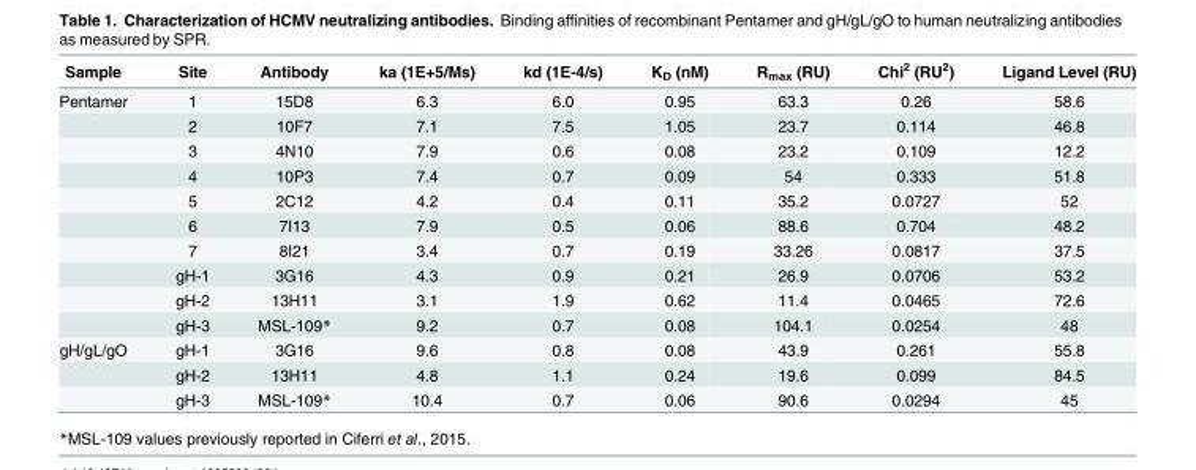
<table><thead><tr><td>Sample</td><td>Site</td><td>Antibody</td><td>ka (1E+5/Ms)</td><td>kd (1E-4/s)</td><td>K<sub>D</sub> (nM)</td><td>R<sub>max</sub> (RU)</td><td>Chi<sup>2</sup> (RU<sup>2</sup>)</td><td>Ligand Level (RU)</td></tr></thead><tbody><tr><td rowspan="10">Pentamer</td><td>1</td><td>15D8</td><td>6.3</td><td>6.0</td><td>0.95</td><td>63.3</td><td>0.26</td><td>58.6</td></tr><tr><td>2</td><td>10F7</td><td>7.1</td><td>7.5</td><td>1.05</td><td>23.7</td><td>0.114</td><td>46.8</td></tr><tr><td>3</td><td>4N10</td><td>7.9</td><td>0.6</td><td>0.08</td><td>23.2</td><td>0.109</td><td>12.2</td></tr><tr><td>4</td><td>10P3</td><td>7.4</td><td>0.7</td><td>0.09</td><td>54</td><td>0.333</td><td>51.8</td></tr><tr><td>5</td><td>2C12</td><td>4.2</td><td>0.4</td><td>0.11</td><td>35.2</td><td>0.0727</td><td>52</td></tr><tr><td>6</td><td>7I13</td><td>7.9</td><td>0.5</td><td>0.06</td><td>88.6</td><td>0.704</td><td>48.2</td></tr><tr><td>7</td><td>8I21</td><td>3.4</td><td>0.7</td><td>0.19</td><td>33.26</td><td>0.0817</td><td>37.5</td></tr><tr><td>gH-1</td><td>3G16</td><td>4.3</td><td>0.9</td><td>0.21</td><td>26.9</td><td>0.0706</td><td>53.2</td></tr><tr><td>gH-2</td><td>13H11</td><td>3.1</td><td>1.9</td><td>0.62</td><td>11.4</td><td>0.0465</td><td>72.6</td></tr><tr><td>gH-3</td><td>MSL-109*</td><td>9.2</td><td>0.7</td><td>0.08</td><td>104.1</td><td>0.0254</td><td>48</td></tr><tr><td rowspan="3">gH/gL/gO</td><td>gH-1</td><td>3G16</td><td>9.6</td><td>0.8</td><td>0.08</td><td>43.9</td><td>0.261</td><td>55.8</td></tr><tr><td>gH-2</td><td>13H11</td><td>4.8</td><td>1.1</td><td>0.24</td><td>19.6</td><td>0.099</td><td>84.5</td></tr><tr><td>gH-3</td><td>MSL-109*</td><td>10.4</td><td>0.7</td><td>0.06</td><td>90.6</td><td>0.0294</td><td>45</td></tr></tbody></table>